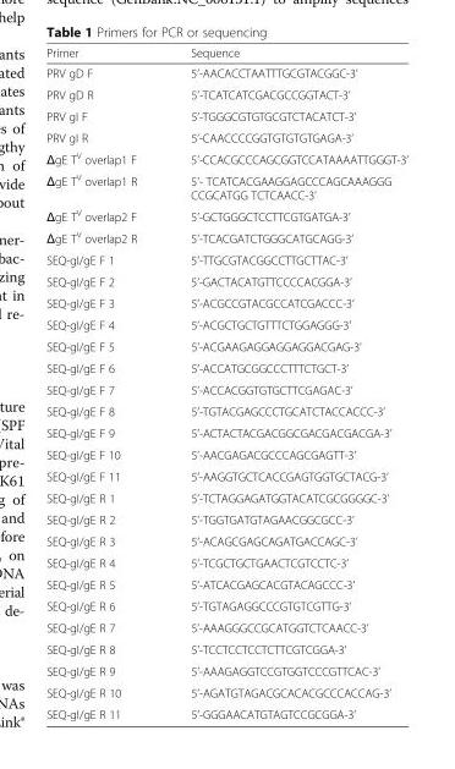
<table><thead><tr><td>Primer</td><td>Sequence</td></tr></thead><tbody><tr><td>PRV gD F</td><td>5’-AACACCTAATTTGCGTACGGC-3’</td></tr><tr><td>PRV gD R</td><td>5’-TCATCATCGACGCCGGTACT-3’</td></tr><tr><td>PRV gI F</td><td>5’-TGGGCGTGTGCGTCTACATCT-3’</td></tr><tr><td>PRV gI R</td><td>5’-CAACCCCGGTGTGTGTGAGA-3’</td></tr><tr><td>ΔgE T<sup>V</sup> overlap1 F</td><td>5’-CCACGCCCAGCGGTCCATAAAATTGGGT-3’</td></tr><tr><td>ΔgE T<sup>V</sup> overlap1 R</td><td>5’- TCATCACGAAGGAGCCCAGCAAAGGG CCGCATGG TCTCAACC-3’</td></tr><tr><td>ΔgE T<sup>V</sup> overlap2 F</td><td>5’-GCTGGGCTCCTTCGTGATGA-3’</td></tr><tr><td>ΔgE T<sup>V</sup> overlap2 R</td><td>5’-TCACGATCTGGGCATGCAGG-3’</td></tr><tr><td>SEQ-gI/gE F 1</td><td>5’-TTGCGTACGGCCTTGCTTAC-3’</td></tr><tr><td>SEQ-gI/gE F 2</td><td>5’-GACTACATGTTCCCCACGGA-3’</td></tr><tr><td>SEQ-gI/gE F 3</td><td>5’-ACGCCGTACGCCATCGACCC-3’</td></tr><tr><td>SEQ-gI/gE F 4</td><td>5’-ACGCTGCTGTTTCTGGAGGG-3’</td></tr><tr><td>SEQ-gI/gE F 5</td><td>5’-ACGAAGAGGAGGAGGACGAG-3’</td></tr><tr><td>SEQ-gI/gE F 6</td><td>5’-ACCATGCGGCCCTTTCTGCT-3’</td></tr><tr><td>SEQ-gI/gE F 7</td><td>5’-ACCACGGTGTGCTTCGAGAC-3’</td></tr><tr><td>SEQ-gI/gE F 8</td><td>5’-TGTACGAGCCCTGCATCTACCACCC-3’</td></tr><tr><td>SEQ-gI/gE F 9</td><td>5’-ACTACTACGACGGCGACGACGACGA-3’</td></tr><tr><td>SEQ-gI/gE F 10</td><td>5’-AACGAGACGCCCAGCGAGTT-3’</td></tr><tr><td>SEQ-gI/gE F 11</td><td>5’-AAGGTGCTCACCGAGTGGTGCTACG-3’</td></tr><tr><td>SEQ-gI/gE R 1</td><td>5’-TCTAGGAGATGGTACATCGCGGGGC-3’</td></tr><tr><td>SEQ-gI/gE R 2</td><td>5’-TGGTGATGTAGAACGGCGCC-3’</td></tr><tr><td>SEQ-gI/gE R 3</td><td>5’-ACAGCGAGCAGATGACCAGC-3’</td></tr><tr><td>SEQ-gI/gE R 4</td><td>5’-TCGCTGCTGAACTCGTCCTC-3’</td></tr><tr><td>SEQ-gI/gE R 5</td><td>5’-ATCACGAGCACGTACAGCCC-3’</td></tr><tr><td>SEQ-gI/gE R 6</td><td>5’-TGTAGAGGCCCGTGTCGTTG-3’</td></tr><tr><td>SEQ-gI/gE R 7</td><td>5’-AAAGGGCCGCATGGTCTCAACC-3’</td></tr><tr><td>SEQ-gI/gE R 8</td><td>5’-TCCTCCTCCTCTTCGTCGGA-3’</td></tr><tr><td>SEQ-gI/gE R 9</td><td>5’-AAAGAGGTCCGTGGTCCCGTTCAC-3’</td></tr><tr><td>SEQ-gI/gE R 10</td><td>5’-AGATGTAGACGCACACGCCCACCAG-3’</td></tr><tr><td>SEQ-gI/gE R 11</td><td>5’-GGGAACATGTAGTCCGCGGA-3’</td></tr></tbody></table>